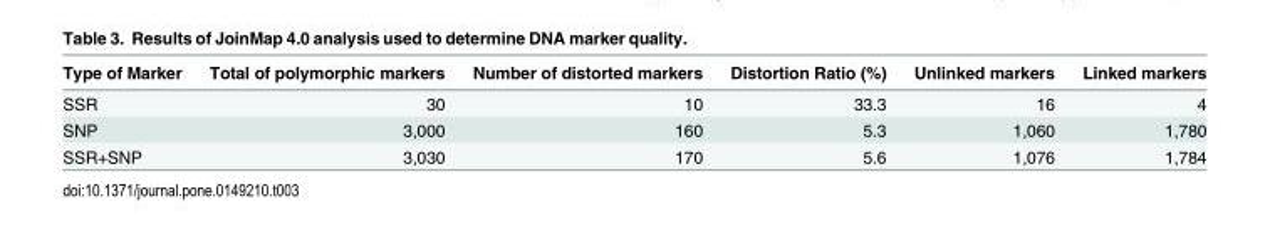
<table><thead><tr><td>Type of Marker</td><td>Total of polymorphic markers</td><td>Number of distorted markers</td><td>Distortion Ratio (%)</td><td>Unlinked markers</td><td>Linked markers</td></tr></thead><tbody><tr><td>SSR</td><td>30</td><td>10</td><td>33.3</td><td>16</td><td>4</td></tr><tr><td>SNP</td><td>3,000</td><td>160</td><td>5.3</td><td>1,060</td><td>1,780</td></tr><tr><td>SSR+SNP</td><td>3,030</td><td>170</td><td>5.6</td><td>1,076</td><td>1,784</td></tr></tbody></table>